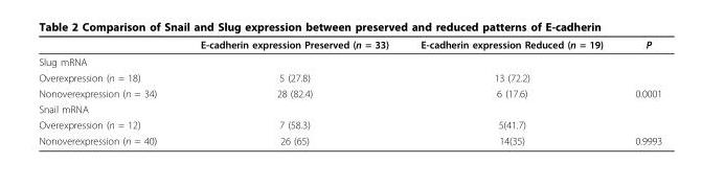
<table><thead><tr><td></td><td>E-cadherin expression Preserved (n = 33)</td><td>E-cadherin expression Reduced (n = 19)</td><td>P</td></tr></thead><tbody><tr><td colspan="4">Slug mRNA</td></tr><tr><td>Overexpression (n = 18)</td><td>5 (27.8)</td><td>13 (72.2)</td><td></td></tr><tr><td>Nonoverexpression (n = 34)</td><td>28 (82.4)</td><td>6 (17.6)</td><td>0.0001</td></tr><tr><td colspan="4">Snail mRNA</td></tr><tr><td>Overexpression (n = 12)</td><td>7 (58.3)</td><td>5(41.7)</td><td></td></tr><tr><td>Nonoverexpression (n = 40)</td><td>26 (65)</td><td>14(35)</td><td>0.9993</td></tr></tbody></table>